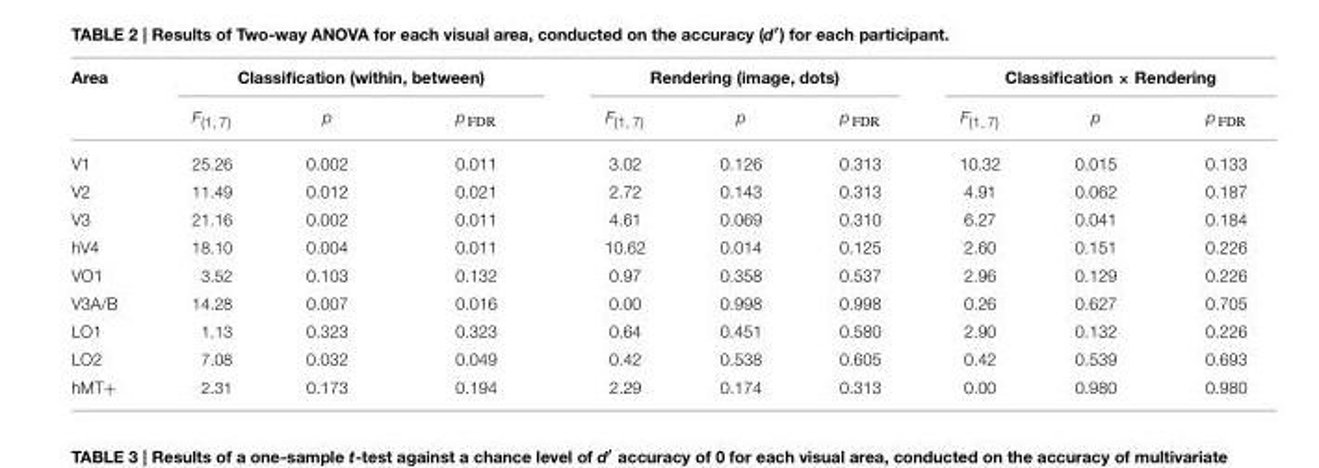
<table><thead><tr><td rowspan="2">Area</td><td colspan="3">Classification (within, between)</td><td colspan="3">Rendering (image, dots)</td><td colspan="3">Classification × Rendering</td></tr><tr><td>F<sub>(1, 7)</sub></td><td>p</td><td>p <sub>FDR</sub></td><td>F<sub>(1, 7)</sub></td><td>p</td><td>p <sub>FDR</sub></td><td>F<sub>(1, 7)</sub></td><td>p</td><td>p <sub>FDR</sub></td></tr></thead><tbody><tr><td>V1</td><td>25.26</td><td>0.002</td><td>0.011</td><td>3.02</td><td>0.126</td><td>0.313</td><td>10.32</td><td>0.015</td><td>0.133</td></tr><tr><td>V2</td><td>11.49</td><td>0.012</td><td>0.021</td><td>2.72</td><td>0.143</td><td>0.313</td><td>4.91</td><td>0.062</td><td>0.187</td></tr><tr><td>V3</td><td>21.16</td><td>0.002</td><td>0.011</td><td>4.61</td><td>0.069</td><td>0.310</td><td>6.27</td><td>0.041</td><td>0.184</td></tr><tr><td>hV4</td><td>18.10</td><td>0.004</td><td>0.011</td><td>10.62</td><td>0.014</td><td>0.125</td><td>2.60</td><td>0.151</td><td>0.226</td></tr><tr><td>VO1</td><td>3.52</td><td>0.103</td><td>0.132</td><td>0.97</td><td>0.358</td><td>0.537</td><td>2.96</td><td>0.129</td><td>0.226</td></tr><tr><td>V3A/B</td><td>14.28</td><td>0.007</td><td>0.016</td><td>0.00</td><td>0.998</td><td>0.998</td><td>0.26</td><td>0.627</td><td>0.705</td></tr><tr><td>LO1</td><td>1.13</td><td>0.323</td><td>0.323</td><td>0.64</td><td>0.451</td><td>0.580</td><td>2.90</td><td>0.132</td><td>0.226</td></tr><tr><td>LO2</td><td>7.08</td><td>0.032</td><td>0.049</td><td>0.42</td><td>0.538</td><td>0.605</td><td>0.42</td><td>0.539</td><td>0.693</td></tr><tr><td>hMT+</td><td>2.31</td><td>0.173</td><td>0.194</td><td>2.29</td><td>0.174</td><td>0.313</td><td>0.00</td><td>0.980</td><td>0.980</td></tr></tbody></table>